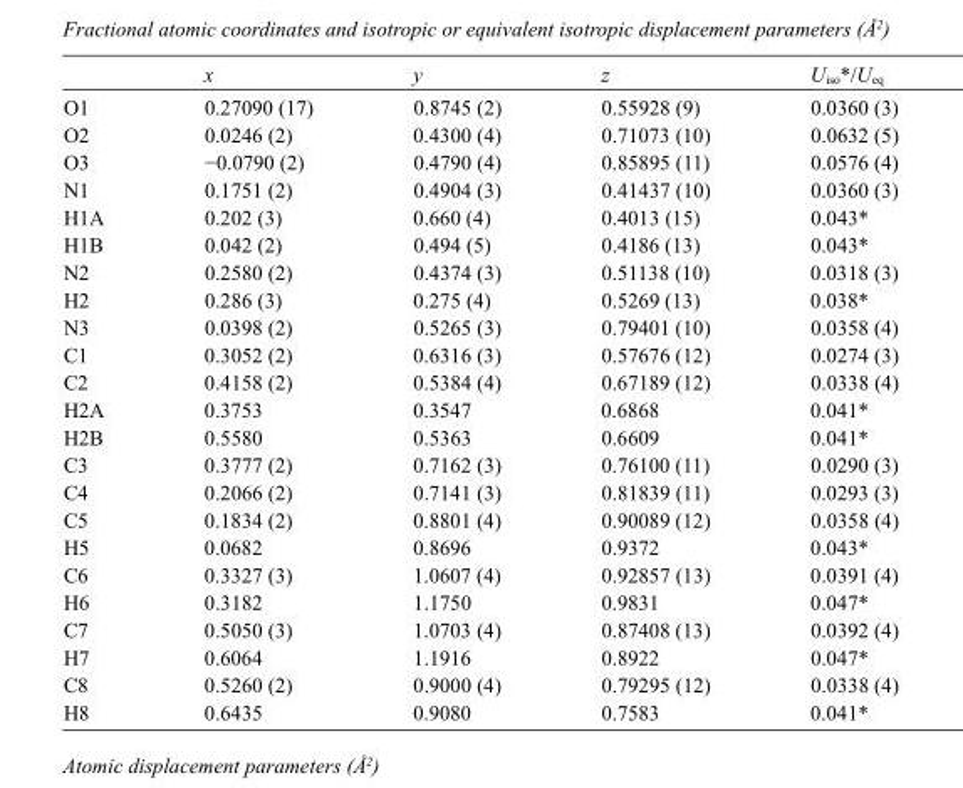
<table><thead><tr><td></td><td>x</td><td>y</td><td>z</td><td>U<sub>iso</sub>*/U<sub>eq</sub></td></tr></thead><tbody><tr><td>O1</td><td>0.27090 (17)</td><td>0.8745 (2)</td><td>0.55928 (9)</td><td>0.0360 (3)</td></tr><tr><td>O2</td><td>0.0246 (2)</td><td>0.4300 (4)</td><td>0.71073 (10)</td><td>0.0632 (5)</td></tr><tr><td>O3</td><td>−0.0790 (2)</td><td>0.4790 (4)</td><td>0.85895 (11)</td><td>0.0576 (4)</td></tr><tr><td>N1</td><td>0.1751 (2)</td><td>0.4904 (3)</td><td>0.41437 (10)</td><td>0.0360 (3)</td></tr><tr><td>H1A</td><td>0.202 (3)</td><td>0.660 (4)</td><td>0.4013 (15)</td><td>0.043*</td></tr><tr><td>H1B</td><td>0.042 (2)</td><td>0.494 (5)</td><td>0.4186 (13)</td><td>0.043*</td></tr><tr><td>N2</td><td>0.2580 (2)</td><td>0.4374 (3)</td><td>0.51138 (10)</td><td>0.0318 (3)</td></tr><tr><td>H2</td><td>0.286 (3)</td><td>0.275 (4)</td><td>0.5269 (13)</td><td>0.038*</td></tr><tr><td>N3</td><td>0.0398 (2)</td><td>0.5265 (3)</td><td>0.79401 (10)</td><td>0.0358 (4)</td></tr><tr><td>C1</td><td>0.3052 (2)</td><td>0.6316 (3)</td><td>0.57676 (12)</td><td>0.0274 (3)</td></tr><tr><td>C2</td><td>0.4158 (2)</td><td>0.5384 (4)</td><td>0.67189 (12)</td><td>0.0338 (4)</td></tr><tr><td>H2A</td><td>0.3753</td><td>0.3547</td><td>0.6868</td><td>0.041*</td></tr><tr><td>H2B</td><td>0.5580</td><td>0.5363</td><td>0.6609</td><td>0.041*</td></tr><tr><td>C3</td><td>0.3777 (2)</td><td>0.7162 (3)</td><td>0.76100 (11)</td><td>0.0290 (3)</td></tr><tr><td>C4</td><td>0.2066 (2)</td><td>0.7141 (3)</td><td>0.81839 (11)</td><td>0.0293 (3)</td></tr><tr><td>C5</td><td>0.1834 (2)</td><td>0.8801 (4)</td><td>0.90089 (12)</td><td>0.0358 (4)</td></tr><tr><td>H5</td><td>0.0682</td><td>0.8696</td><td>0.9372</td><td>0.043*</td></tr><tr><td>C6</td><td>0.3327 (3)</td><td>1.0607 (4)</td><td>0.92857 (13)</td><td>0.0391 (4)</td></tr><tr><td>H6</td><td>0.3182</td><td>1.1750</td><td>0.9831</td><td>0.047*</td></tr><tr><td>C7</td><td>0.5050 (3)</td><td>1.0703 (4)</td><td>0.87408 (13)</td><td>0.0392 (4)</td></tr><tr><td>H7</td><td>0.6064</td><td>1.1916</td><td>0.8922</td><td>0.047*</td></tr><tr><td>C8</td><td>0.5260 (2)</td><td>0.9000 (4)</td><td>0.79295 (12)</td><td>0.0338 (4)</td></tr><tr><td>H8</td><td>0.6435</td><td>0.9080</td><td>0.7583</td><td>0.041*</td></tr></tbody></table>